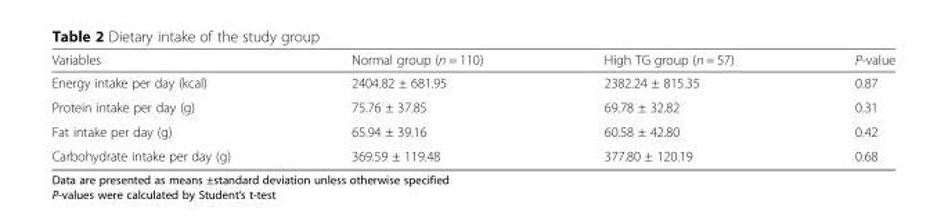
<table><thead><tr><td>Variables</td><td>Normal group (n = 110)</td><td>High TG group (n = 57)</td><td>P-value</td></tr></thead><tbody><tr><td>Energy intake per day (kcal)</td><td>2404.82 ± 681.95</td><td>2382.24 ± 815.35</td><td>0.87</td></tr><tr><td>Protein intake per day (g)</td><td>75.76 ± 37.85</td><td>69.78 ± 32.82</td><td>0.31</td></tr><tr><td>Fat intake per day (g)</td><td>65.94 ± 39.16</td><td>60.58 ± 42.80</td><td>0.42</td></tr><tr><td>Carbohydrate intake per day (g)</td><td>369.59 ± 119.48</td><td>377.80 ± 120.19</td><td>0.68</td></tr></tbody></table>